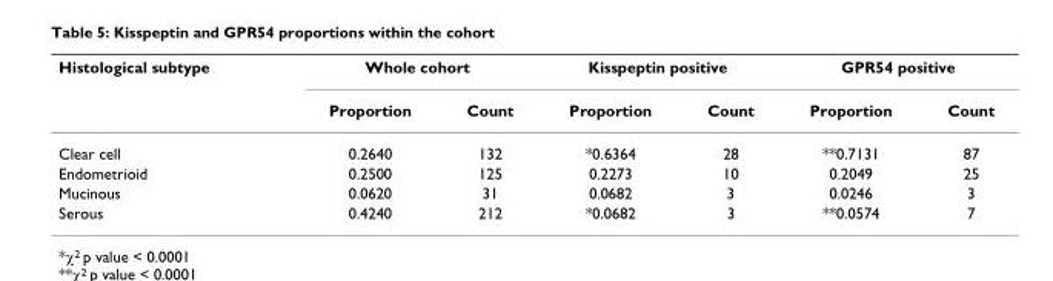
<table><thead><tr><td rowspan="2">Histological subtype</td><td colspan="2">Whole cohort</td><td colspan="2">Kisspeptin positive</td><td colspan="2">GPR54 positive</td></tr><tr><td>Proportion</td><td>Count</td><td>Proportion</td><td>Count</td><td>Proportion</td><td>Count</td></tr></thead><tbody><tr><td>Clear cell</td><td>0.2640</td><td>132</td><td>*0.6364</td><td>28</td><td>**0.7131</td><td>87</td></tr><tr><td>Endometrioid</td><td>0.2500</td><td>125</td><td>0.2273</td><td>10</td><td>0.2049</td><td>25</td></tr><tr><td>Mucinous</td><td>0.0620</td><td>31</td><td>0.0682</td><td>3</td><td>0.0246</td><td>3</td></tr><tr><td>Serous</td><td>0.4240</td><td>212</td><td>*0.0682</td><td>3</td><td>**0.0574</td><td>7</td></tr></tbody></table>